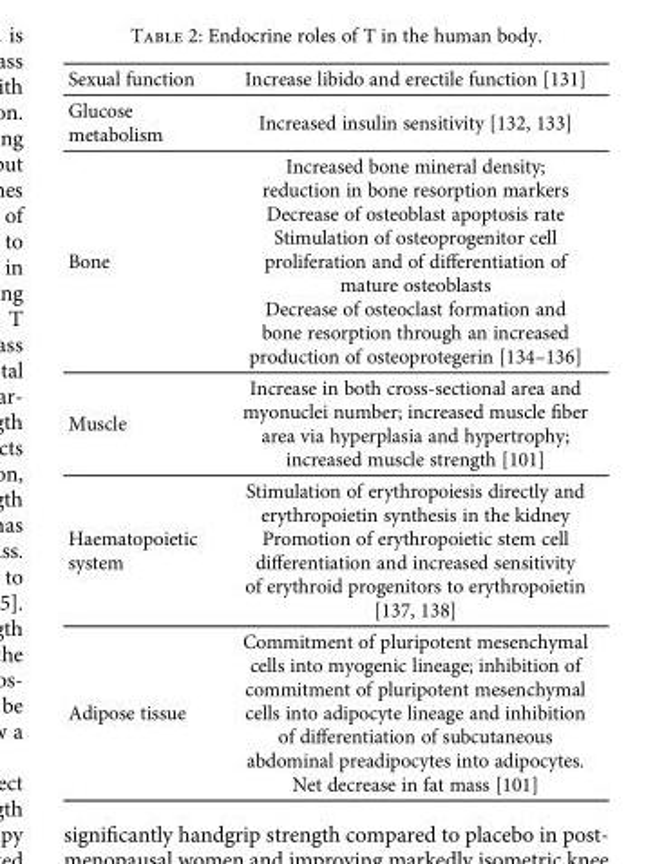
<table><tbody><tr><td>Sexual function</td><td>Increase libido and erectile function [131]</td></tr><tr><td>Glucose metabolism</td><td>Increased insulin sensitivity [132, 133]</td></tr><tr><td>Bone</td><td>Increased bone mineral density; reduction in bone resorption markers Decrease of osteoblast apoptosis rate Stimulation of osteoprogenitor cell proliferation and of differentiation of mature osteoblasts Decrease of osteoclast formation and bone resorption through an increased production of osteoprotegerin [134–136]</td></tr><tr><td>Muscle</td><td>Increase in both cross-sectional area and myonuclei number; increased muscle fiber area via hyperplasia and hypertrophy; increased muscle strength [101]</td></tr><tr><td>Haematopoietic system</td><td>Stimulation of erythropoiesis directly and erythropoietin synthesis in the kidney Promotion of erythropoietic stem cell differentiation and increased sensitivity of erythroid progenitors to erythropoietin [137, 138]</td></tr><tr><td>Adipose tissue</td><td>Commitment of pluripotent mesenchymal cells into myogenic lineage; inhibition of commitment of pluripotent mesenchymal cells into adipocyte lineage and inhibition of differentiation of subcutaneous abdominal preadipocytes into adipocytes. Net decrease in fat mass [101]</td></tr></tbody></table>